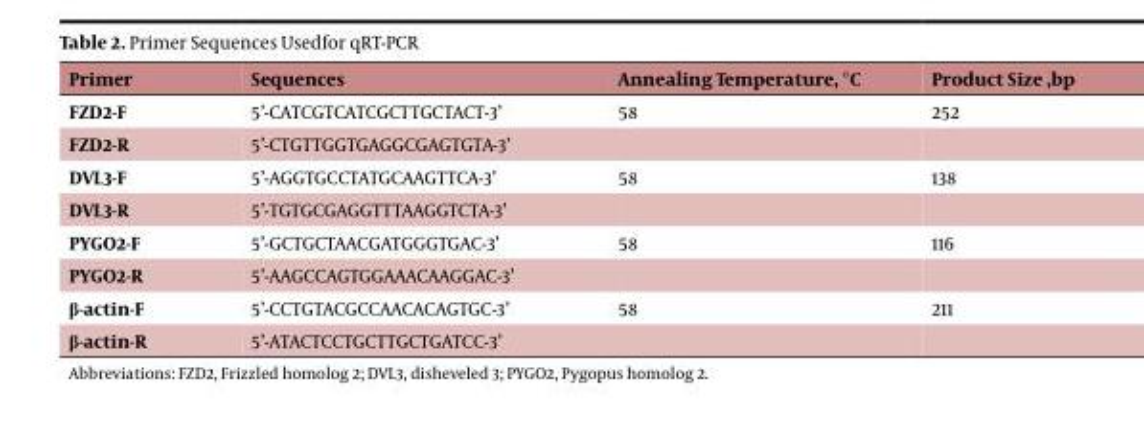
<table><thead><tr><td>Primer</td><td>Sequences</td><td>Annealing Temperature, °C</td><td>Product Size ,bp</td></tr></thead><tbody><tr><td>FZD2-F</td><td>5’-CATCGTCATCGCTTGCTACT-3’</td><td rowspan="2">58</td><td rowspan="2">252</td></tr><tr><td>FZD2-R</td><td>5’-CTGTTGGTGAGGCGAGTGTA-3’</td></tr><tr><td>DVL3-F</td><td>5’-AGGTGCCTATGCAAGTTCA-3’</td><td rowspan="2">58</td><td rowspan="2">138</td></tr><tr><td>DVL3-R</td><td>5’-TGTGCGAGGTTTAAGGTCTA-3’</td></tr><tr><td>PYGO2-F</td><td>5’-GCTGCTAACGATGGGTGAC-3’</td><td rowspan="2">58</td><td rowspan="2">116</td></tr><tr><td>PYGO2-R</td><td>5’-AAGCCAGTGGAAACAAGGAC-3’</td></tr><tr><td>β-actin-F</td><td>5’-CCTGTACGCCAACACAGTGC-3’</td><td rowspan="2">58</td><td rowspan="2">211</td></tr><tr><td>β-actin-R</td><td>5’-ATACTCCTGCTTGCTGATCC-3’</td></tr></tbody></table>